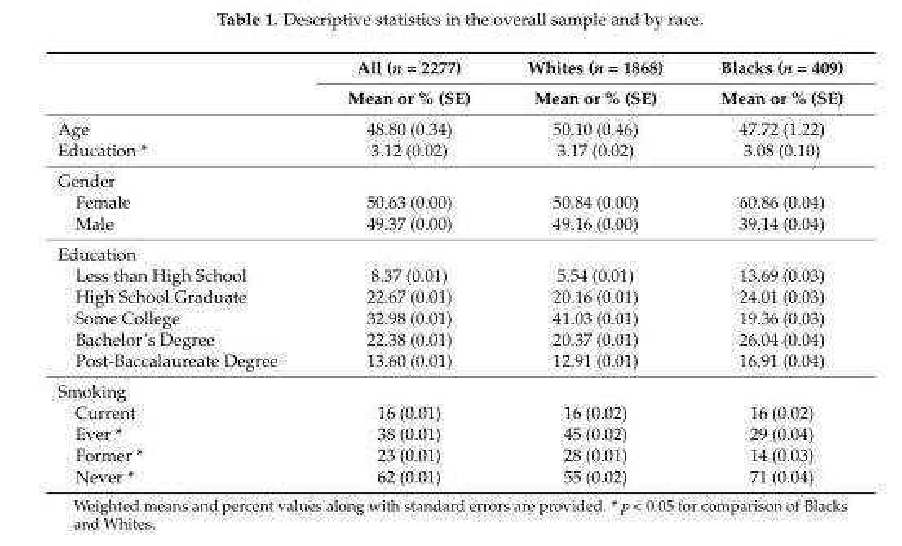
<table><thead><tr><td rowspan="2"></td><td rowspan="2">All (n = 2277) Mean or % (SE)</td><td rowspan="2">Whites (n = 1868) Mean or % (SE)</td><td rowspan="2">Blacks (n = 409) Mean or % (SE)</td></tr><tr></tr></thead><tbody><tr><td>Age</td><td>48.80 (0.34)</td><td>50.10 (0.46)</td><td>47.72 (1.22)</td></tr><tr><td>Education *</td><td>3.12 (0.02)</td><td>3.17 (0.02)</td><td>3.08 (0.10)</td></tr><tr><td colspan="4">Gender</td></tr><tr><td>Female</td><td>50.63 (0.00)</td><td>50.84 (0.00)</td><td>60.86 (0.04)</td></tr><tr><td>Male</td><td>49.37 (0.00)</td><td>49.16 (0.00)</td><td>39.14 (0.04)</td></tr><tr><td colspan="4">Education</td></tr><tr><td>Less than High School</td><td>8.37 (0.01)</td><td>5.54 (0.01)</td><td>13.69 (0.03)</td></tr><tr><td>High School Graduate</td><td>22.67 (0.01)</td><td>20.16 (0.01)</td><td>24.01 (0.03)</td></tr><tr><td>Some College</td><td>32.98 (0.01)</td><td>41.03 (0.01)</td><td>19.36 (0.03)</td></tr><tr><td>Bachelor’s Degree</td><td>22.38 (0.01)</td><td>20.37 (0.01)</td><td>26.04 (0.04)</td></tr><tr><td>Post-Baccalaureate Degree</td><td>13.60 (0.01)</td><td>12.91 (0.01)</td><td>16.91 (0.04)</td></tr><tr><td colspan="4">Smoking</td></tr><tr><td>Current</td><td>16 (0.01)</td><td>16 (0.02)</td><td>16 (0.02)</td></tr><tr><td>Ever *</td><td>38 (0.01)</td><td>45 (0.02)</td><td>29 (0.04)</td></tr><tr><td>Former *</td><td>23 (0.01)</td><td>28 (0.01)</td><td>14 (0.03)</td></tr><tr><td>Never *</td><td>62 (0.01)</td><td>55 (0.02)</td><td>71 (0.04)</td></tr></tbody></table>